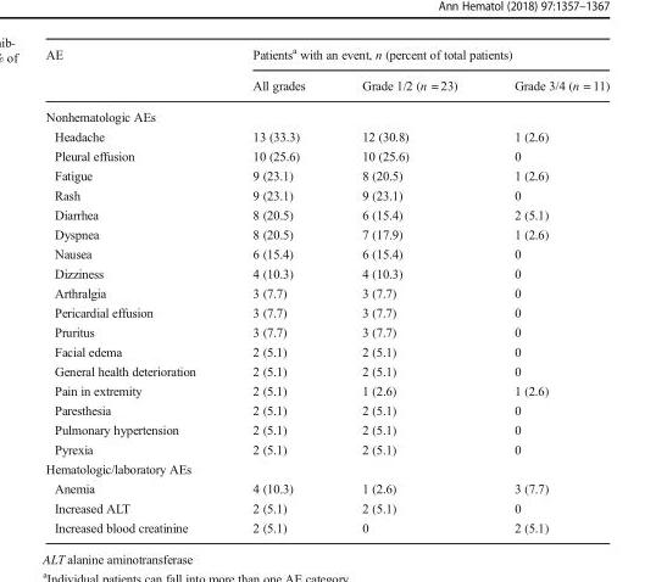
<table><thead><tr><td rowspan="2">AE</td><td colspan="3">Patients<sup>a</sup> with an event, n (percent of total patients)</td></tr><tr><td>All grades</td><td>Grade 1/2 (n = 23)</td><td>Grade 3/4 (n = 11)</td></tr></thead><tbody><tr><td colspan="4">Nonhematologic AEs</td></tr><tr><td>Headache</td><td>13 (33.3)</td><td>12 (30.8)</td><td>1 (2.6)</td></tr><tr><td>Pleural effusion</td><td>10 (25.6)</td><td>10 (25.6)</td><td>0</td></tr><tr><td>Fatigue</td><td>9 (23.1)</td><td>8 (20.5)</td><td>1 (2.6)</td></tr><tr><td>Rash</td><td>9 (23.1)</td><td>9 (23.1)</td><td>0</td></tr><tr><td>Diarrhea</td><td>8 (20.5)</td><td>6 (15.4)</td><td>2 (5.1)</td></tr><tr><td>Dyspnea</td><td>8 (20.5)</td><td>7 (17.9)</td><td>1 (2.6)</td></tr><tr><td>Nausea</td><td>6 (15.4)</td><td>6 (15.4)</td><td>0</td></tr><tr><td>Dizziness</td><td>4 (10.3)</td><td>4 (10.3)</td><td>0</td></tr><tr><td>Arthralgia</td><td>3 (7.7)</td><td>3 (7.7)</td><td>0</td></tr><tr><td>Pericardial effusion</td><td>3 (7.7)</td><td>3 (7.7)</td><td>0</td></tr><tr><td>Pruritus</td><td>3 (7.7)</td><td>3 (7.7)</td><td>0</td></tr><tr><td>Facial edema</td><td>2 (5.1)</td><td>2 (5.1)</td><td>0</td></tr><tr><td>General health deterioration</td><td>2 (5.1)</td><td>2 (5.1)</td><td>0</td></tr><tr><td>Pain in extremity</td><td>2 (5.1)</td><td>1 (2.6)</td><td>1 (2.6)</td></tr><tr><td>Paresthesia</td><td>2 (5.1)</td><td>2 (5.1)</td><td>0</td></tr><tr><td>Pulmonary hypertension</td><td>2 (5.1)</td><td>2 (5.1)</td><td>0</td></tr><tr><td>Pyrexia</td><td>2 (5.1)</td><td>2 (5.1)</td><td>0</td></tr><tr><td colspan="4">Hematologic/laboratory AEs</td></tr><tr><td>Anemia</td><td>4 (10.3)</td><td>1 (2.6)</td><td>3 (7.7)</td></tr><tr><td>Increased ALT</td><td>2 (5.1)</td><td>2 (5.1)</td><td>0</td></tr><tr><td>Increased blood creatinine</td><td>2 (5.1)</td><td>0</td><td>2 (5.1)</td></tr></tbody></table>